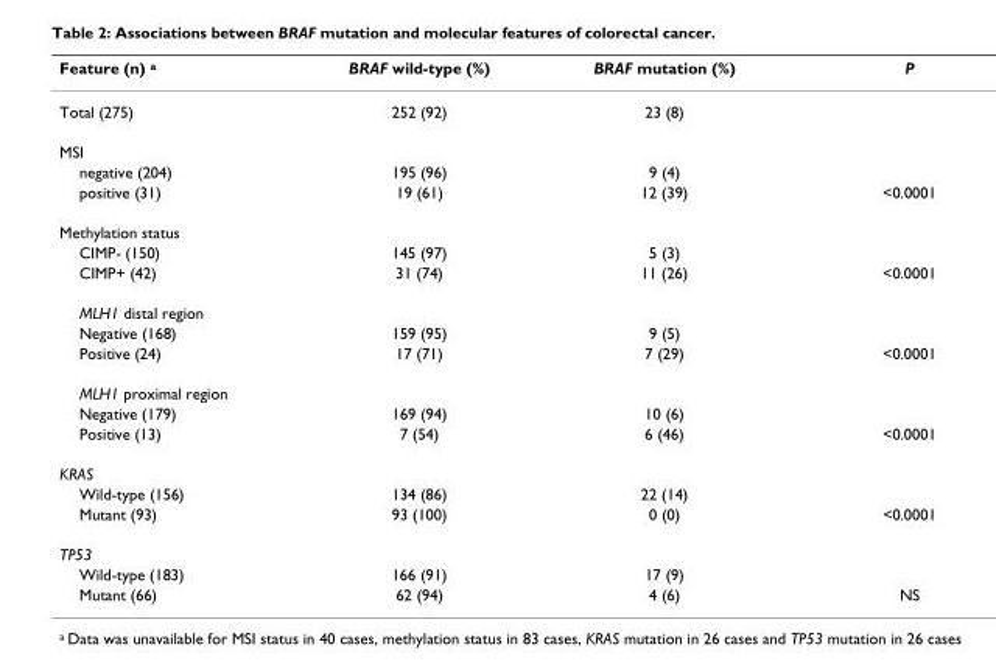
<table><thead><tr><td>Feature (n) <sup>a</sup></td><td>BRAF wild-type (%)</td><td>BRAF mutation (%)</td><td>P</td></tr></thead><tbody><tr><td>Total (275)</td><td>252 (92)</td><td>23 (8)</td><td></td></tr><tr><td colspan="4">MSI</td></tr><tr><td>negative (204)</td><td>195 (96)</td><td>9 (4)</td><td></td></tr><tr><td>positive (31)</td><td>19 (61)</td><td>12 (39)</td><td>&lt;0.0001</td></tr><tr><td colspan="4">Methylation status</td></tr><tr><td>CIMP- (150)</td><td>145 (97)</td><td>5 (3)</td><td></td></tr><tr><td>CIMP+ (42)</td><td>31 (74)</td><td>11 (26)</td><td>&lt;0.0001</td></tr><tr><td colspan="4">MLH1 distal region</td></tr><tr><td>Negative (168)</td><td>159 (95)</td><td>9 (5)</td><td></td></tr><tr><td>Positive (24)</td><td>17 (71)</td><td>7 (29)</td><td>&lt;0.0001</td></tr><tr><td colspan="4">MLH1 proximal region</td></tr><tr><td>Negative (179)</td><td>169 (94)</td><td>10 (6)</td><td></td></tr><tr><td>Positive (13)</td><td>7 (54)</td><td>6 (46)</td><td>&lt;0.0001</td></tr><tr><td colspan="4">KRAS</td></tr><tr><td>Wild-type (156)</td><td>134 (86)</td><td>22 (14)</td><td></td></tr><tr><td>Mutant (93)</td><td>93 (100)</td><td>0 (0)</td><td>&lt;0.0001</td></tr><tr><td colspan="4">TP53</td></tr><tr><td>Wild-type (183)</td><td>166 (91)</td><td>17 (9)</td><td></td></tr><tr><td>Mutant (66)</td><td>62 (94)</td><td>4 (6)</td><td>NS</td></tr></tbody></table>